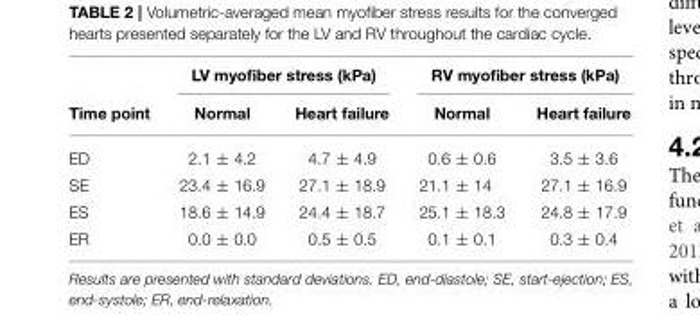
<table><thead><tr><td rowspan="2">Time point</td><td colspan="2">LV myofiber stress (kPa)</td><td colspan="2">RV myofiber stress (kPa)</td></tr><tr><td>Normal</td><td>Heart failure</td><td>Normal</td><td>Heart failure</td></tr></thead><tbody><tr><td>ED</td><td>2.1 ± 4.2</td><td>4.7 ± 4.9</td><td>0.6 ± 0.6</td><td>3.5 ± 3.6</td></tr><tr><td>SE</td><td>23.4 ± 16.9</td><td>27.1 ± 18.9</td><td>21.1 ± 14</td><td>27.1 ± 16.9</td></tr><tr><td>ES</td><td>18.6 ± 14.9</td><td>24.4 ± 18.7</td><td>25.1 ± 18.3</td><td>24.8 ± 17.9</td></tr><tr><td>ER</td><td>0.0 ± 0.0</td><td>0.5 ± 0.5</td><td>0.1 ± 0.1</td><td>0.3 ± 0.4</td></tr></tbody></table>